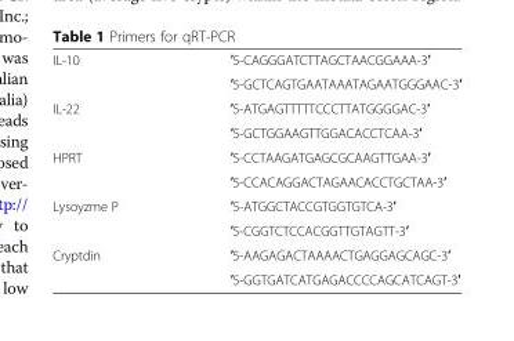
<table><tbody><tr><td rowspan="2">IL-10</td><td>′5-CAGGGATCTTAGCTAACGGAAA-3′</td></tr><tr><td>′5-GCTCAGTGAATAAATAGAATGGGAAC-3′</td></tr><tr><td rowspan="2">IL-22</td><td>′5-ATGAGTTTTTCCCTTATGGGGAC-3′</td></tr><tr><td>′5-GCTGGAAGTTGGACACCTCAA-3′</td></tr><tr><td rowspan="2">HPRT</td><td>′5-CCTAAGATGAGCGCAAGTTGAA-3′</td></tr><tr><td>′5-CCACAGGACTAGAACACCTGCTAA-3′</td></tr><tr><td rowspan="2">Lysoyzme P</td><td>′5-ATGGCTACCGTGGTGTCA-3′</td></tr><tr><td>′5-CGGTCTCCACGGTTGTAGTT-3′</td></tr><tr><td rowspan="2">Cryptdin</td><td>′5-AAGAGACTAAAACTGAGGAGCAGC-3′</td></tr><tr><td>′5-GGTGATCATGAGACCCCAGCATCAGT-3′</td></tr></tbody></table>